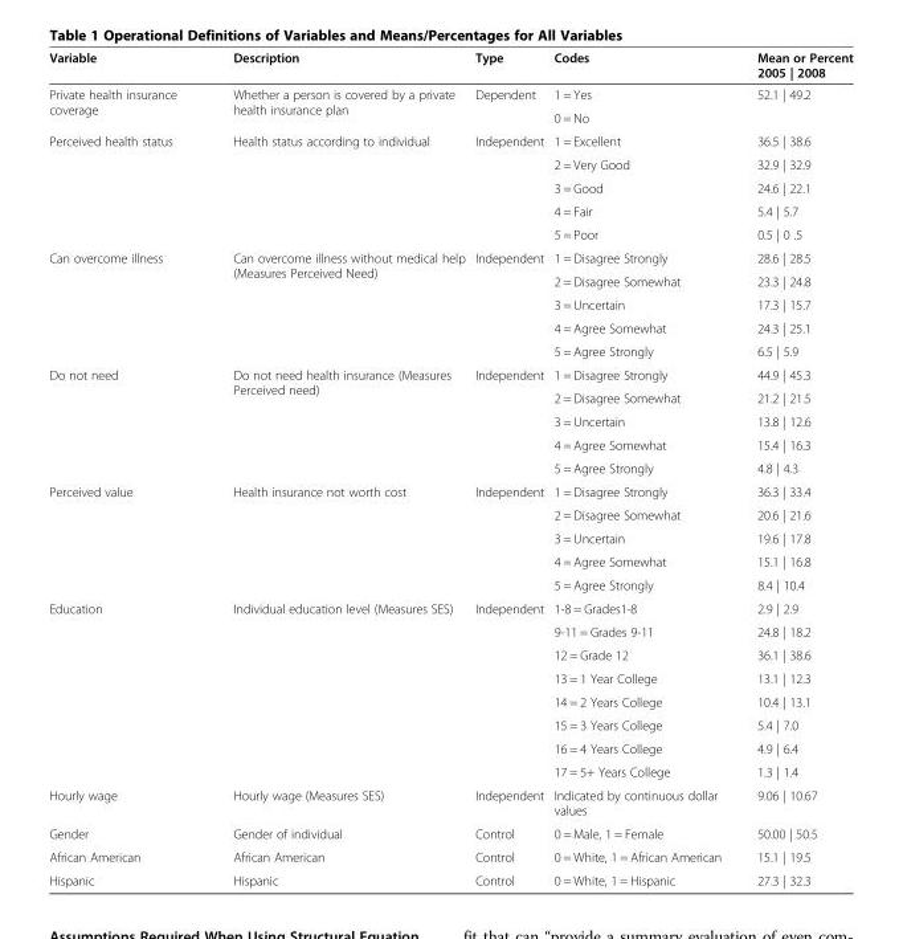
<table><thead><tr><td>Variable</td><td>Description</td><td>Type</td><td>Codes</td><td>Mean or Percent 2005 | 2008</td></tr></thead><tbody><tr><td rowspan="2">Private health insurance coverage</td><td rowspan="2">Whether a person is covered by a private health insurance plan</td><td rowspan="2">Dependent</td><td>1 = Yes</td><td rowspan="2">52.1 | 49.2</td></tr><tr><td>0 = No</td></tr><tr><td rowspan="5">Perceived health status</td><td rowspan="5">Health status according to individual</td><td rowspan="5">Independent</td><td>1 = Excellent</td><td>36.5 | 38.6</td></tr><tr><td>2 = Very Good</td><td>32.9 | 32.9</td></tr><tr><td>3 = Good</td><td>24.6 | 22.1</td></tr><tr><td>4 = Fair</td><td>5.4 | 5.7</td></tr><tr><td>5 = Poor</td><td>0.5 | 0 .5</td></tr><tr><td rowspan="5">Can overcome illness</td><td rowspan="5">Can overcome illness without medical help (Measures Perceived Need)</td><td rowspan="5">Independent</td><td>1 = Disagree Strongly</td><td>28.6 | 28.5</td></tr><tr><td>2 = Disagree Somewhat</td><td>23.3 | 24.8</td></tr><tr><td>3 = Uncertain</td><td>17.3 | 15.7</td></tr><tr><td>4 = Agree Somewhat</td><td>24.3 | 25.1</td></tr><tr><td>5 = Agree Strongly</td><td>6.5 | 5.9</td></tr><tr><td rowspan="5">Do not need</td><td rowspan="5">Do not need health insurance (Measures Perceived need)</td><td rowspan="5">Independent</td><td>1 = Disagree Strongly</td><td>44.9 | 45.3</td></tr><tr><td>2 = Disagree Somewhat</td><td>21.2 | 21.5</td></tr><tr><td>3 = Uncertain</td><td>13.8 | 12.6</td></tr><tr><td>4 = Agree Somewhat</td><td>15.4 | 16.3</td></tr><tr><td>5 = Agree Strongly</td><td>4.8 | 4.3</td></tr><tr><td rowspan="5">Perceived value</td><td rowspan="5">Health insurance not worth cost</td><td rowspan="5">Independent</td><td>1 = Disagree Strongly</td><td>36.3 | 33.4</td></tr><tr><td>2 = Disagree Somewhat</td><td>20.6 | 21.6</td></tr><tr><td>3 = Uncertain</td><td>19.6 | 17.8</td></tr><tr><td>4 = Agree Somewhat</td><td>15.1 | 16.8</td></tr><tr><td>5 = Agree Strongly</td><td>8.4 | 10.4</td></tr><tr><td rowspan="8">Education</td><td rowspan="8">Individual education level (Measures SES)</td><td rowspan="8">Independent</td><td>1-8 = Grades1-8</td><td>2.9 | 2.9</td></tr><tr><td>9-11 = Grades 9-11</td><td>24.8 | 18.2</td></tr><tr><td>12 = Grade 12</td><td>36.1 | 38.6</td></tr><tr><td>13 = 1 Year College</td><td>13.1 | 12.3</td></tr><tr><td>14 = 2 Years College</td><td>10.4 | 13.1</td></tr><tr><td>15 = 3 Years College</td><td>5.4 | 7.0</td></tr><tr><td>16 = 4 Years College</td><td>4.9 | 6.4</td></tr><tr><td>17 = 5+ Years College</td><td>1.3 | 1.4</td></tr><tr><td>Hourly wage</td><td>Hourly wage (Measures SES)</td><td>Independent</td><td>Indicated by continuous dollar values</td><td>9.06 | 10.67</td></tr><tr><td>Gender</td><td>Gender of individual</td><td>Control</td><td>0 = Male, 1 = Female</td><td>50.00 | 50.5</td></tr><tr><td>African American</td><td>African American</td><td>Control</td><td>0 = White, 1 = African American</td><td>15.1 | 19.5</td></tr><tr><td>Hispanic</td><td>Hispanic</td><td>Control</td><td>0 = White, 1 = Hispanic</td><td>27.3 | 32.3</td></tr></tbody></table>